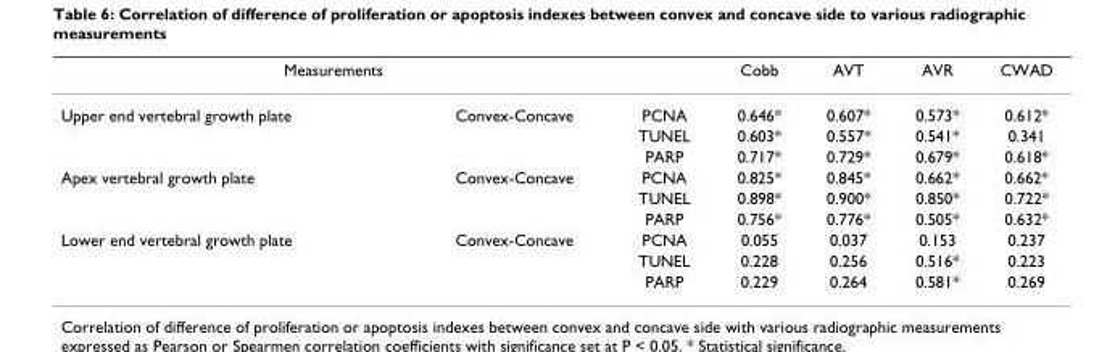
<table><thead><tr><td colspan="2">Measurements</td><td rowspan="2">PCNA</td><td rowspan="2">Cobb 0.646*</td><td rowspan="2">AVT 0.607*</td><td rowspan="2">AVR 0.573*</td><td rowspan="2">CWAD 0.612*</td></tr><tr><td>Upper end vertebral growth plate</td><td>Convex-Concave</td></tr></thead><tbody><tr><td></td><td></td><td>TUNEL</td><td>0.603*</td><td>0.557*</td><td>0.541*</td><td>0.341</td></tr><tr><td></td><td></td><td>PARP</td><td>0.717*</td><td>0.729*</td><td>0.679*</td><td>0.618*</td></tr><tr><td rowspan="3">Apex vertebral growth plate</td><td>Convex-Concave</td><td>PCNA</td><td>0.825*</td><td>0.845*</td><td>0.662*</td><td>0.662*</td></tr><tr><td></td><td>TUNEL</td><td>0.898*</td><td>0.900*</td><td>0.850*</td><td>0.722*</td></tr><tr><td></td><td>PARP</td><td>0.756*</td><td>0.776*</td><td>0.505*</td><td>0.632*</td></tr><tr><td rowspan="3">Lower end vertebral growth plate</td><td>Convex-Concave</td><td>PCNA</td><td>0.055</td><td>0.037</td><td>0.153</td><td>0.237</td></tr><tr><td></td><td>TUNEL</td><td>0.228</td><td>0.256</td><td>0.516*</td><td>0.223</td></tr><tr><td></td><td>PARP</td><td>0.229</td><td>0.264</td><td>0.581*</td><td>0.269</td></tr></tbody></table>